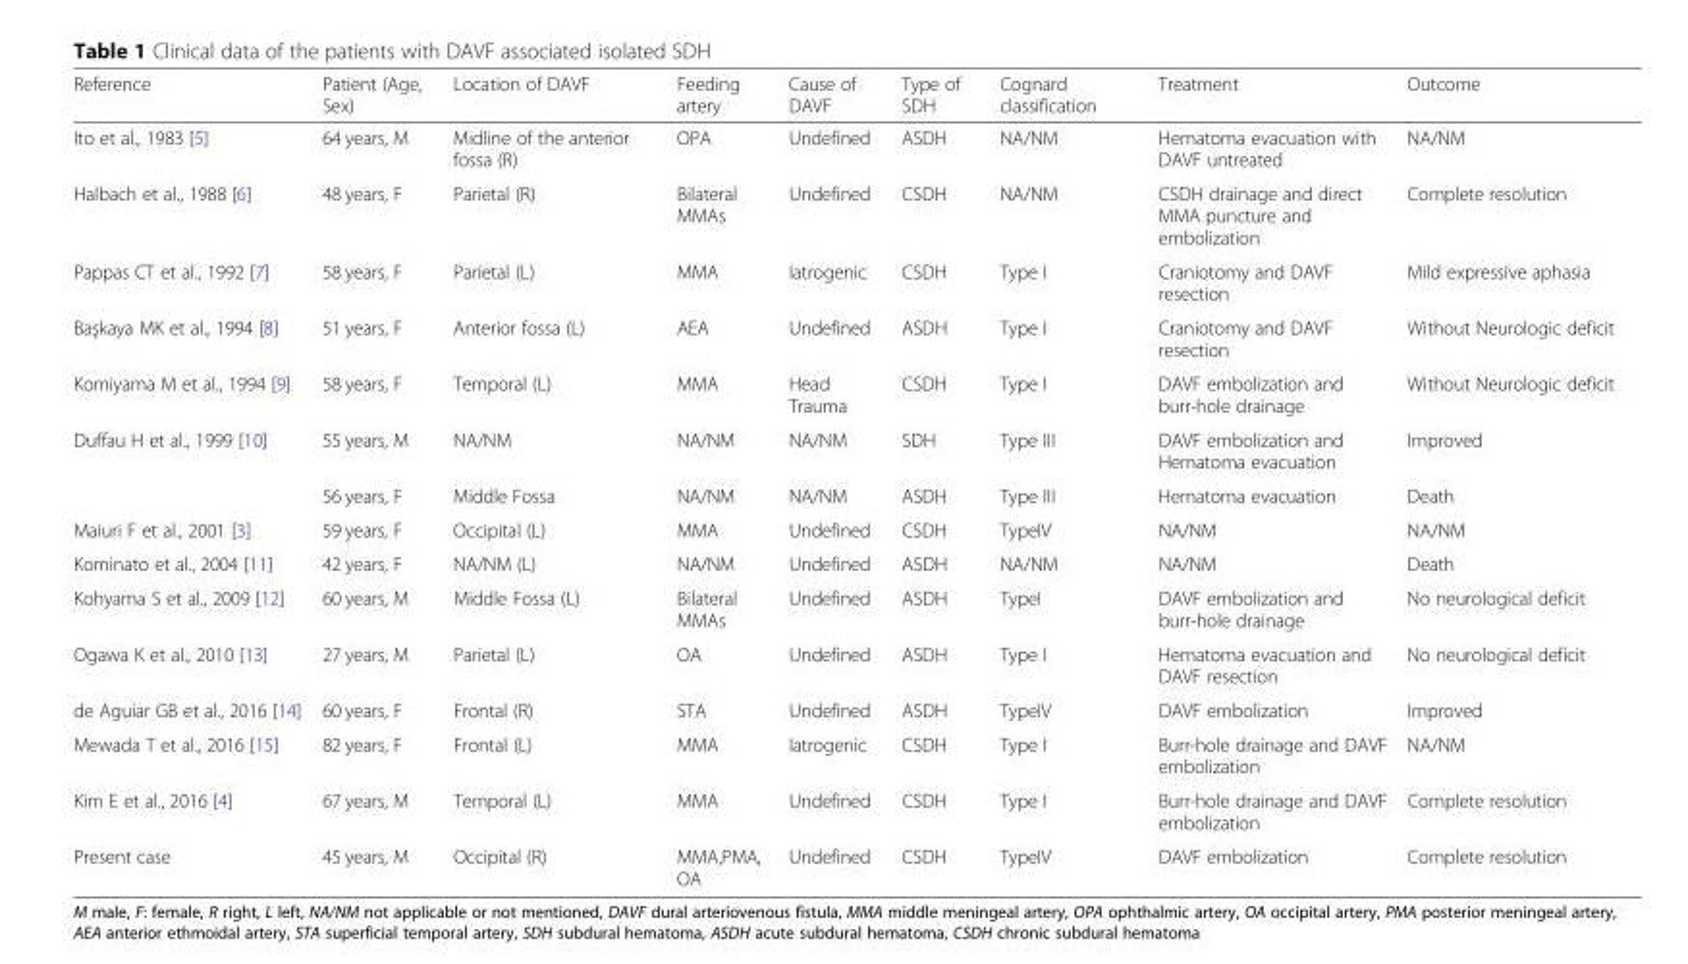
<table><thead><tr><td>Reference</td><td>Patient (Age, Sex)</td><td>Location of DAVF</td><td>Feeding artery</td><td>Cause of DAVF</td><td>Type of SDH</td><td>Cognard classification</td><td>Treatment</td><td>Outcome</td></tr></thead><tbody><tr><td>Ito et al., 1983 [5]</td><td>64 years, M</td><td>Midline of the anterior fossa (R)</td><td>OPA</td><td>Undefined</td><td>ASDH</td><td>NA/NM</td><td>Hematoma evacuation with DAVF untreated</td><td>NA/NM</td></tr><tr><td>Halbach et al., 1988 [6]</td><td>48 years, F</td><td>Parietal (R)</td><td>Bilateral MMAs</td><td>Undefined</td><td>CSDH</td><td>NA/NM</td><td>CSDH drainage and direct MMA puncture and embolization</td><td>Complete resolution</td></tr><tr><td>Pappas CT et al., 1992 [7]</td><td>58 years, F</td><td>Parietal (L)</td><td>MMA</td><td>Iatrogenic</td><td>CSDH</td><td>Type I</td><td>Craniotomy and DAVF resection</td><td>Mild expressive aphasia</td></tr><tr><td>Başkaya MK et al., 1994 [8]</td><td>51 years, F</td><td>Anterior fossa (L)</td><td>AEA</td><td>Undefined</td><td>ASDH</td><td>Type I</td><td>Craniotomy and DAVF resection</td><td>Without Neurologic deficit</td></tr><tr><td>Komiyama M et al., 1994 [9]</td><td>58 years, F</td><td>Temporal (L)</td><td>MMA</td><td>Head Trauma</td><td>CSDH</td><td>Type I</td><td>DAVF embolization and burr-hole drainage</td><td>Without Neurologic deficit</td></tr><tr><td rowspan="2">Duffau H et al., 1999 [10]</td><td>55 years, M</td><td>NA/NM</td><td>NA/NM</td><td>NA/NM</td><td>SDH</td><td>Type III</td><td>DAVF embolization and Hematoma evacuation</td><td>Improved</td></tr><tr><td>56 years, F</td><td>Middle Fossa</td><td>NA/NM</td><td>NA/NM</td><td>ASDH</td><td>Type III</td><td>Hematoma evacuation</td><td>Death</td></tr><tr><td>Maiuri F et al., 2001 [3]</td><td>59 years, F</td><td>Occipital (L)</td><td>MMA</td><td>Undefined</td><td>CSDH</td><td>TypeIV</td><td>NA/NM</td><td>NA/NM</td></tr><tr><td>Kominato et al., 2004 [11]</td><td>42 years, F</td><td>NA/NM (L)</td><td>NA/NM</td><td>Undefined</td><td>ASDH</td><td>NA/NM</td><td>NA/NM</td><td>Death</td></tr><tr><td>Kohyama S et al., 2009 [12]</td><td>60 years, M</td><td>Middle Fossa (L)</td><td>Bilateral MMAs</td><td>Undefined</td><td>ASDH</td><td>TypeI</td><td>DAVF embolization and burr-hole drainage</td><td>No neurological deficit</td></tr><tr><td>Ogawa K et al., 2010 [13]</td><td>27 years, M</td><td>Parietal (L)</td><td>OA</td><td>Undefined</td><td>ASDH</td><td>Type I</td><td>Hematoma evacuation and DAVF resection</td><td>No neurological deficit</td></tr><tr><td>de Aguiar GB et al., 2016 [14]</td><td>60 years, F</td><td>Frontal (R)</td><td>STA</td><td>Undefined</td><td>ASDH</td><td>TypeIV</td><td>DAVF embolization</td><td>Improved</td></tr><tr><td>Mewada T et al., 2016 [15]</td><td>82 years, F</td><td>Frontal (L)</td><td>MMA</td><td>Iatrogenic</td><td>CSDH</td><td>Type I</td><td>Burr-hole drainage and DAVF embolization</td><td>NA/NM</td></tr><tr><td>Kim E et al., 2016 [4]</td><td>67 years, M</td><td>Temporal (L)</td><td>MMA</td><td>Undefined</td><td>CSDH</td><td>Type I</td><td>Burr-hole drainage and DAVF embolization</td><td>Complete resolution</td></tr><tr><td>Present case</td><td>45 years, M</td><td>Occipital (R)</td><td>MMA,PMA, OA</td><td>Undefined</td><td>CSDH</td><td>TypeIV</td><td>DAVF embolization</td><td>Complete resolution</td></tr></tbody></table>